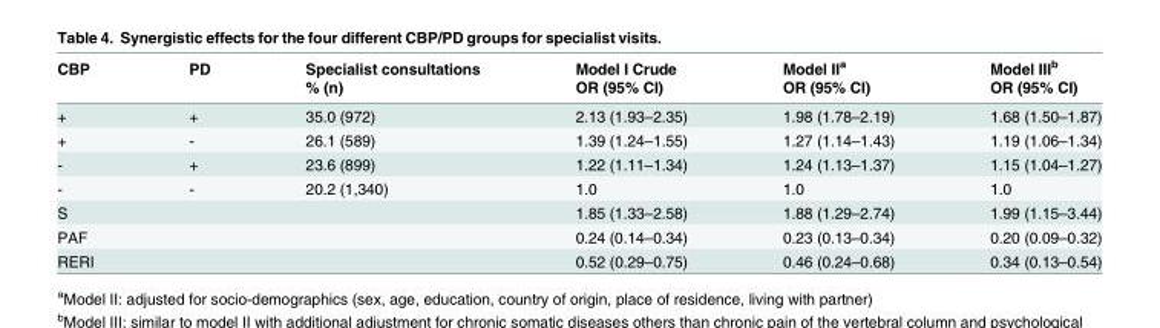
<table><thead><tr><td rowspan="2">CBP</td><td rowspan="2">PD</td><td rowspan="2">Specialist consultations % (n)</td><td rowspan="2">Model I Crude OR (95% CI)</td><td rowspan="2">Model II<sup>a</sup> OR (95% CI)</td><td rowspan="2">Model III<sup>b</sup> OR (95% CI)</td></tr><tr></tr></thead><tbody><tr><td>+</td><td>+</td><td>35.0 (972)</td><td>2.13 (1.93–2.35)</td><td>1.98 (1.78–2.19)</td><td>1.68 (1.50–1.87)</td></tr><tr><td>+</td><td>-</td><td>26.1 (589)</td><td>1.39 (1.24–1.55)</td><td>1.27 (1.14–1.43)</td><td>1.19 (1.06–1.34)</td></tr><tr><td>-</td><td>+</td><td>23.6 (899)</td><td>1.22 (1.11–1.34)</td><td>1.24 (1.13–1.37)</td><td>1.15 (1.04–1.27)</td></tr><tr><td>-</td><td>-</td><td>20.2 (1,340)</td><td>1.0</td><td>1.0</td><td>1.0</td></tr><tr><td>S</td><td></td><td></td><td>1.85 (1.33–2.58)</td><td>1.88 (1.29–2.74)</td><td>1.99 (1.15–3.44)</td></tr><tr><td>PAF</td><td></td><td></td><td>0.24 (0.14–0.34)</td><td>0.23 (0.13–0.34)</td><td>0.20 (0.09–0.32)</td></tr><tr><td>RERI</td><td></td><td></td><td>0.52 (0.29–0.75)</td><td>0.46 (0.24–0.68)</td><td>0.34 (0.13–0.54)</td></tr></tbody></table>